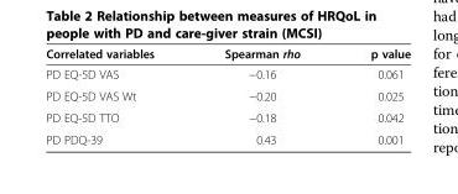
<table><thead><tr><td>Correlated variables</td><td>Spearman rho</td><td>p value</td></tr></thead><tbody><tr><td>PD EQ-5D VAS</td><td>−0.16</td><td>0.061</td></tr><tr><td>PD EQ-5D VAS Wt</td><td>−0.20</td><td>0.025</td></tr><tr><td>PD EQ-5D TTO</td><td>−0.18</td><td>0.042</td></tr><tr><td>PD PDQ-39</td><td>0.43</td><td>0.001</td></tr></tbody></table>